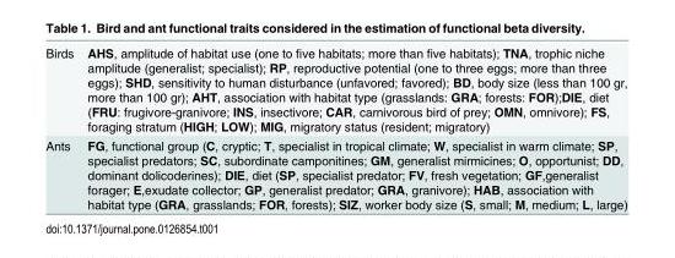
<table><tbody><tr><td>Birds</td><td>AHS, amplitude of habitat use (one to five habitats; more than five habitats); TNA, trophic niche amplitude (generalist; specialist); RP, reproductive potential (one to three eggs; more than three eggs); SHD, sensitivity to human disturbance (unfavored; favored); BD, body size (less than 100 gr, more than 100 gr); AHT, association with habitat type (grasslands: GRA; forests: FOR);DIE, diet (FRU: frugivore-granivore; INS, insectivore; CAR, carnivorous bird of prey; OMN, omnivore); FS, foraging stratum (HIGH; LOW); MIG, migratory status (resident; migratory)</td></tr><tr><td>Ants</td><td>FG, functional group (C, cryptic; T, specialist in tropical climate; W, specialist in warm climate; SP, specialist predators; SC, subordinate camponitines; GM, generalist mirmicines; O, opportunist; DD, dominant dolicoderines); DIE, diet (SP, specialist predator; FV, fresh vegetation; GF,generalist forager; E,exudate collector; GP, generalist predator; GRA, granivore); HAB, association with habitat type (GRA, grasslands; FOR, forests); SIZ, worker body size (S, small; M, medium; L, large)</td></tr></tbody></table>